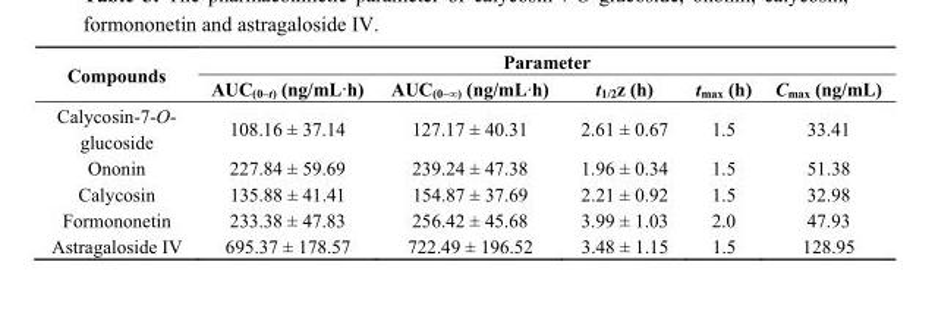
<table><thead><tr><td rowspan="2">Compounds</td><td colspan="5">Parameter</td></tr><tr><td>AUC(0–t) (ng/mL·h)</td><td>AUC(0–∞) (ng/mL·h)</td><td>t<sub>1/2</sub>z (h)</td><td>t<sub>max</sub> (h)</td><td>C<sub>max</sub> (ng/mL)</td></tr></thead><tbody><tr><td>Calycosin-7-O- glucoside</td><td>108.16 ± 37.14</td><td>127.17 ± 40.31</td><td>2.61 ± 0.67</td><td>1.5</td><td>33.41</td></tr><tr><td>Ononin</td><td>227.84 ± 59.69</td><td>239.24 ± 47.38</td><td>1.96 ± 0.34</td><td>1.5</td><td>51.38</td></tr><tr><td>Calycosin</td><td>135.88 ± 41.41</td><td>154.87 ± 37.69</td><td>2.21 ± 0.92</td><td>1.5</td><td>32.98</td></tr><tr><td>Formononetin</td><td>233.38 ± 47.83</td><td>256.42 ± 45.68</td><td>3.99 ± 1.03</td><td>2.0</td><td>47.93</td></tr><tr><td>Astragaloside IV</td><td>695.37 ± 178.57</td><td>722.49 ± 196.52</td><td>3.48 ± 1.15</td><td>1.5</td><td>128.95</td></tr></tbody></table>